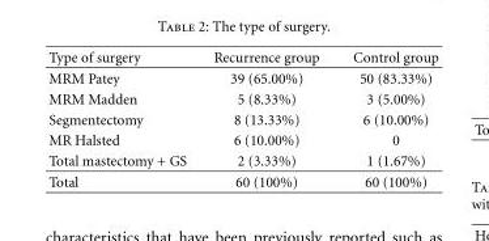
<table><thead><tr><td>Type of surgery</td><td>Recurrence group</td><td>Control group</td></tr></thead><tbody><tr><td>MRM Patey</td><td>39 (65.00%)</td><td>50 (83.33%)</td></tr><tr><td>MRM Madden</td><td>5 (8.33%)</td><td>3 (5.00%)</td></tr><tr><td>Segmentectomy</td><td>8 (13.33%)</td><td>6 (10.00%)</td></tr><tr><td>MR Halsted</td><td>6 (10.00%)</td><td>0</td></tr><tr><td>Total mastectomy + GS</td><td>2 (3.33%)</td><td>1 (1.67%)</td></tr><tr><td>Total</td><td>60 (100%)</td><td>60 (100%)</td></tr></tbody></table>